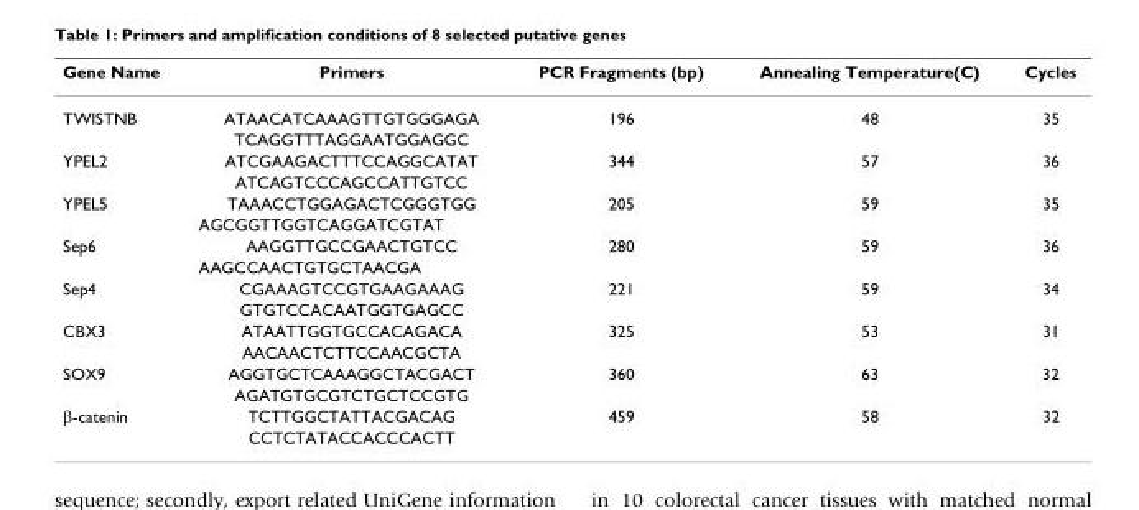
<table><thead><tr><td>Gene Name</td><td>Primers</td><td>PCR Fragments (bp)</td><td>Annealing Temperature(C)</td><td>Cycles</td></tr></thead><tbody><tr><td rowspan="2">TWISTNB</td><td>ATAACATCAAAGTTGTGGGAGA</td><td>196</td><td>48</td><td>35</td></tr><tr><td>TCAGGTTTAGGAATGGAGGC</td><td></td><td></td><td></td></tr><tr><td rowspan="2">YPEL2</td><td>ATCGAAGACTTTCCAGGCATAT</td><td>344</td><td>57</td><td>36</td></tr><tr><td>ATCAGTCCCAGCCATTGTCC</td><td></td><td></td><td></td></tr><tr><td rowspan="2">YPEL5</td><td>TAAACCTGGAGACTCGGGTGG</td><td>205</td><td>59</td><td>35</td></tr><tr><td>AGCGGTTGGTCAGGATCGTAT</td><td></td><td></td><td></td></tr><tr><td rowspan="2">Sep6</td><td>AAGGTTGCCGAACTGTCC</td><td>280</td><td>59</td><td>36</td></tr><tr><td>AAGCCAACTGTGCTAACGA</td><td></td><td></td><td></td></tr><tr><td rowspan="2">Sep4</td><td>CGAAAGTCCGTGAAGAAAG</td><td>221</td><td>59</td><td>34</td></tr><tr><td>GTGTCCACAATGGTGAGCC</td><td></td><td></td><td></td></tr><tr><td rowspan="2">CBX3</td><td>ATAATTGGTGCCACAGACA</td><td>325</td><td>53</td><td>31</td></tr><tr><td>AACAACTCTTCCAACGCTA</td><td></td><td></td><td></td></tr><tr><td rowspan="2">SOX9</td><td>AGGTGCTCAAAGGCTACGACT</td><td>360</td><td>63</td><td>32</td></tr><tr><td>AGATGTGCGTCTGCTCCGTG</td><td></td><td></td><td></td></tr><tr><td rowspan="2">β-catenin</td><td>TCTTGGCTATTACGACAG</td><td>459</td><td>58</td><td>32</td></tr><tr><td>CCTCTATACCACCCACTT</td><td></td><td></td><td></td></tr></tbody></table>